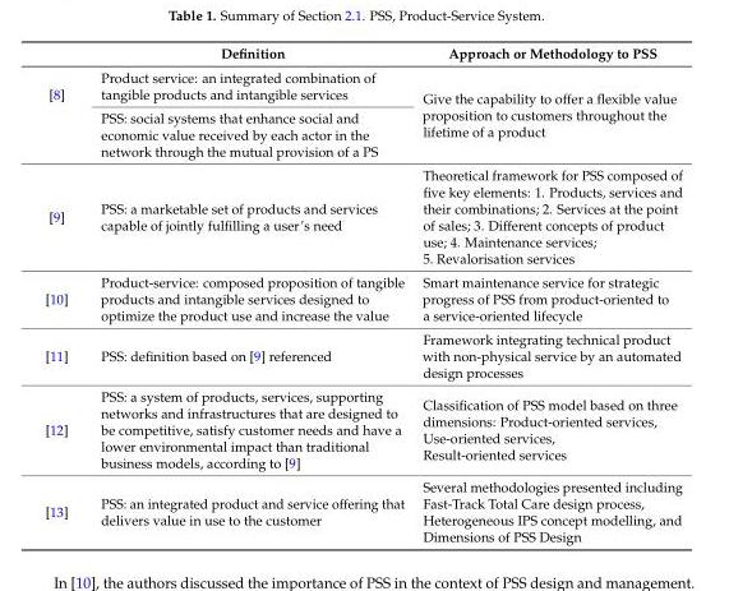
<table><thead><tr><td></td><td>Definition</td><td>Approach or Methodology to PSS</td></tr></thead><tbody><tr><td rowspan="2">[8]</td><td>Product service: an integrated combination of tangible products and intangible services</td><td rowspan="2">Give the capability to offer a flexible value proposition to customers throughout the lifetime of a product</td></tr><tr><td>PSS: social systems that enhance social and economic value received by each actor in the network through the mutual provision of a PS</td></tr><tr><td>[9]</td><td>PSS: a marketable set of products and services capable of jointly fulfilling a user’s need</td><td>Theoretical framework for PSS composed of five key elements: 1. Products, services and their combinations; 2. Services at the point of sales; 3. Different concepts of product use; 4. Maintenance services; 5. Revalorisation services</td></tr><tr><td>[10]</td><td>Product-service: composed proposition of tangible products and intangible services designed to optimize the product use and increase the value</td><td>Smart maintenance service for strategic progress of PSS from product-oriented to a service-oriented lifecycle</td></tr><tr><td>[11]</td><td>PSS: definition based on [9] referenced</td><td>Framework integrating technical product with non-physical service by an automated design processes</td></tr><tr><td>[12]</td><td>PSS: a system of products, services, supporting networks and infrastructures that are designed to be competitive, satisfy customer needs and have a lower environmental impact than traditional business models, according to [9]</td><td>Classification of PSS model based on three dimensions: Product-oriented services, Use-oriented services, Result-oriented services</td></tr><tr><td>[13]</td><td>PSS: an integrated product and service offering that delivers value in use to the customer</td><td>Several methodologies presented including Fast-Track Total Care design process, Heterogeneous IPS concept modelling, and Dimensions of PSS Design</td></tr></tbody></table>